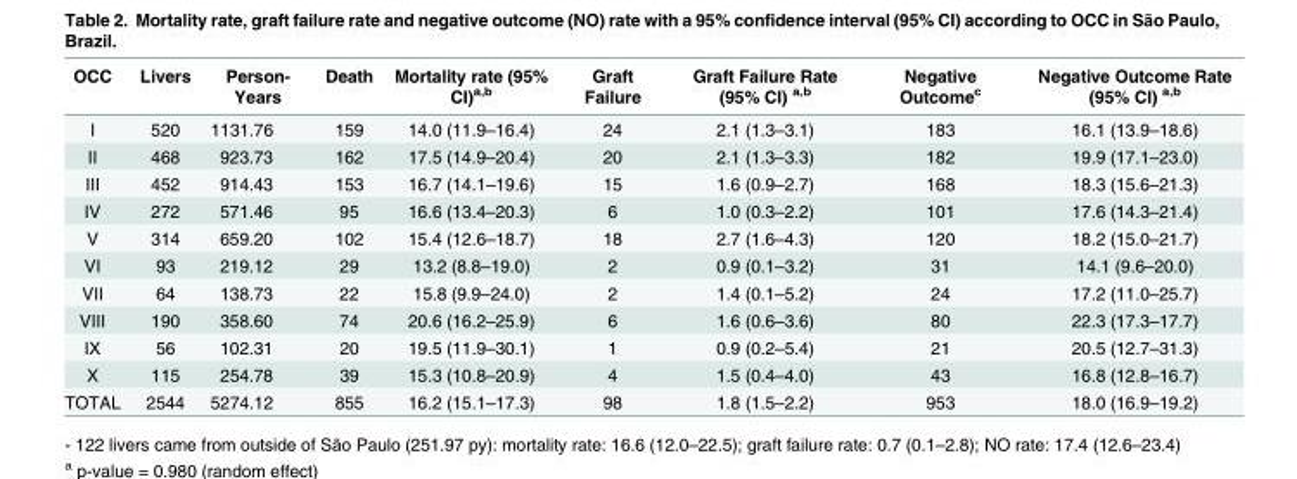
<table><thead><tr><td>OCC</td><td>Livers</td><td>Person- Years</td><td>Death</td><td>Mortality rate (95% CI)<sup>a,b</sup></td><td>Graft Failure</td><td>Graft Failure Rate (95% CI) <sup>a,b</sup></td><td>Negative Outcome<sup>c</sup></td><td>Negative Outcome Rate (95% CI) <sup>a,b</sup></td></tr></thead><tbody><tr><td>I</td><td>520</td><td>1131.76</td><td>159</td><td>14.0 (11.9–16.4)</td><td>24</td><td>2.1 (1.3–3.1)</td><td>183</td><td>16.1 (13.9–18.6)</td></tr><tr><td>II</td><td>468</td><td>923.73</td><td>162</td><td>17.5 (14.9–20.4)</td><td>20</td><td>2.1 (1.3–3.3)</td><td>182</td><td>19.9 (17.1–23.0)</td></tr><tr><td>III</td><td>452</td><td>914.43</td><td>153</td><td>16.7 (14.1–19.6)</td><td>15</td><td>1.6 (0.9–2.7)</td><td>168</td><td>18.3 (15.6–21.3)</td></tr><tr><td>IV</td><td>272</td><td>571.46</td><td>95</td><td>16.6 (13.4–20.3)</td><td>6</td><td>1.0 (0.3–2.2)</td><td>101</td><td>17.6 (14.3–21.4)</td></tr><tr><td>V</td><td>314</td><td>659.20</td><td>102</td><td>15.4 (12.6–18.7)</td><td>18</td><td>2.7 (1.6–4.3)</td><td>120</td><td>18.2 (15.0–21.7)</td></tr><tr><td>VI</td><td>93</td><td>219.12</td><td>29</td><td>13.2 (8.8–19.0)</td><td>2</td><td>0.9 (0.1–3.2)</td><td>31</td><td>14.1 (9.6–20.0)</td></tr><tr><td>VII</td><td>64</td><td>138.73</td><td>22</td><td>15.8 (9.9–24.0)</td><td>2</td><td>1.4 (0.1–5.2)</td><td>24</td><td>17.2 (11.0–25.7)</td></tr><tr><td>VIII</td><td>190</td><td>358.60</td><td>74</td><td>20.6 (16.2–25.9)</td><td>6</td><td>1.6 (0.6–3.6)</td><td>80</td><td>22.3 (17.3–17.7)</td></tr><tr><td>IX</td><td>56</td><td>102.31</td><td>20</td><td>19.5 (11.9–30.1)</td><td>1</td><td>0.9 (0.2–5.4)</td><td>21</td><td>20.5 (12.7–31.3)</td></tr><tr><td>X</td><td>115</td><td>254.78</td><td>39</td><td>15.3 (10.8–20.9)</td><td>4</td><td>1.5 (0.4–4.0)</td><td>43</td><td>16.8 (12.8–16.7)</td></tr><tr><td>TOTAL</td><td>2544</td><td>5274.12</td><td>855</td><td>16.2 (15.1–17.3)</td><td>98</td><td>1.8 (1.5–2.2)</td><td>953</td><td>18.0 (16.9–19.2)</td></tr></tbody></table>